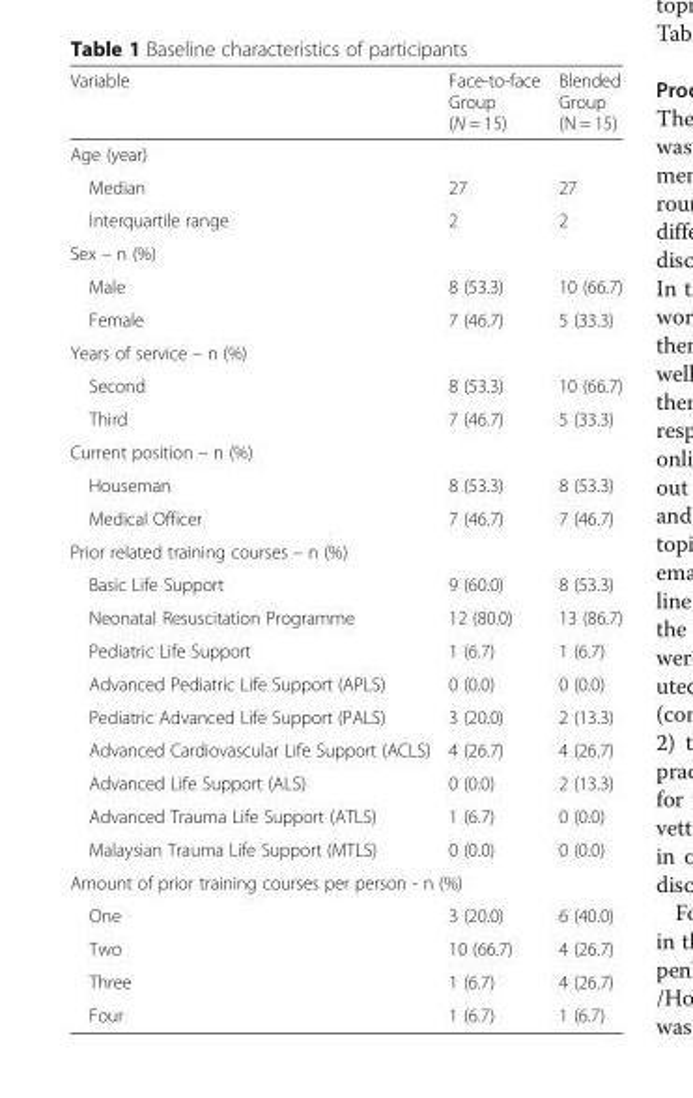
<table><thead><tr><td>Variable</td><td>Face-to-face Group (N = 15)</td><td>Blended Group (N = 15)</td></tr></thead><tbody><tr><td colspan="3">Age (year)</td></tr><tr><td>Median</td><td>27</td><td>27</td></tr><tr><td>Interquartile range</td><td>2</td><td>2</td></tr><tr><td colspan="3">Sex – n (%)</td></tr><tr><td>Male</td><td>8 (53.3)</td><td>10 (66.7)</td></tr><tr><td>Female</td><td>7 (46.7)</td><td>5 (33.3)</td></tr><tr><td colspan="3">Years of service – n (%)</td></tr><tr><td>Second</td><td>8 (53.3)</td><td>10 (66.7)</td></tr><tr><td>Third</td><td>7 (46.7)</td><td>5 (33.3)</td></tr><tr><td colspan="3">Current position – n (%)</td></tr><tr><td>Houseman</td><td>8 (53.3)</td><td>8 (53.3)</td></tr><tr><td>Medical Officer</td><td>7 (46.7)</td><td>7 (46.7)</td></tr><tr><td colspan="3">Prior related training courses – n (%)</td></tr><tr><td>Basic Life Support</td><td>9 (60.0)</td><td>8 (53.3)</td></tr><tr><td>Neonatal Resuscitation Programme</td><td>12 (80.0)</td><td>13 (86.7)</td></tr><tr><td>Pediatric Life Support</td><td>1 (6.7)</td><td>1 (6.7)</td></tr><tr><td>Advanced Pediatric Life Support (APLS)</td><td>0 (0.0)</td><td>0 (0.0)</td></tr><tr><td>Pediatric Advanced Life Support (PALS)</td><td>3 (20.0)</td><td>2 (13.3)</td></tr><tr><td>Advanced Cardiovascular Life Support (ACLS)</td><td>4 (26.7)</td><td>4 (26.7)</td></tr><tr><td>Advanced Life Support (ALS)</td><td>0 (0.0)</td><td>2 (13.3)</td></tr><tr><td>Advanced Trauma Life Support (ATLS)</td><td>1 (6.7)</td><td>0 (0.0)</td></tr><tr><td>Malaysian Trauma Life Support (MTLS)</td><td>0 (0.0)</td><td>0 (0.0)</td></tr><tr><td colspan="3">Amount of prior training courses per person - n (%)</td></tr><tr><td>One</td><td>3 (20.0)</td><td>6 (40.0)</td></tr><tr><td>Two</td><td>10 (66.7)</td><td>4 (26.7)</td></tr><tr><td>Three</td><td>1 (6.7)</td><td>4 (26.7)</td></tr><tr><td>Four</td><td>1 (6.7)</td><td>1 (6.7)</td></tr></tbody></table>